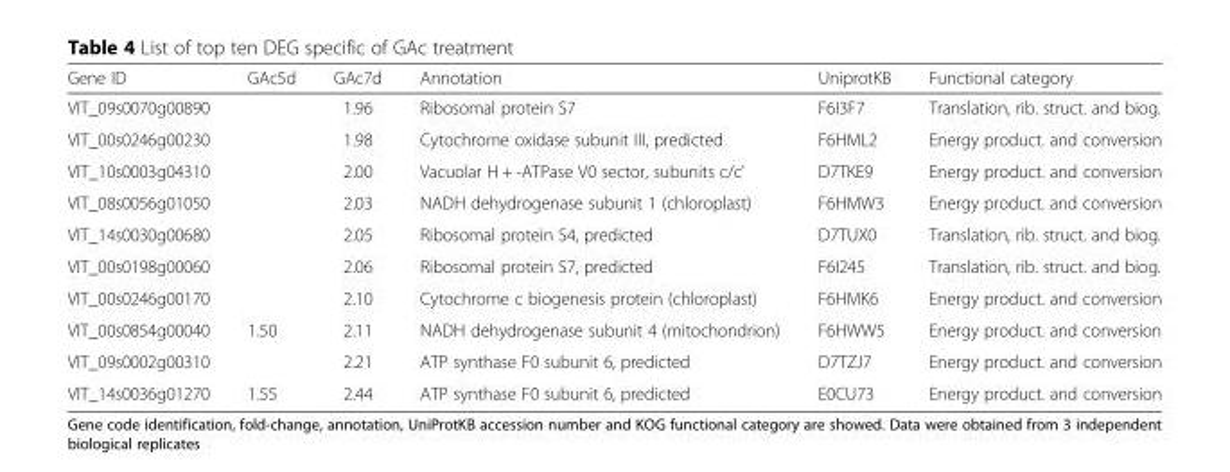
<table><thead><tr><td>Gene ID</td><td>GAc5d</td><td>GAc7d</td><td>Annotation</td><td>UniprotKB</td><td>Functional category</td></tr></thead><tbody><tr><td>VIT_09s0070g00890</td><td></td><td>1.96</td><td>Ribosomal protein S7</td><td>F6I3F7</td><td>Translation, rib. struct. and biog.</td></tr><tr><td>VIT_00s0246g00230</td><td></td><td>1.98</td><td>Cytochrome oxidase subunit III, predicted</td><td>F6HML2</td><td>Energy product. and conversion</td></tr><tr><td>VIT_10s0003g04310</td><td></td><td>2.00</td><td>Vacuolar H + -ATPase V0 sector, subunits c/c&#x27;</td><td>D7TKE9</td><td>Energy product. and conversion</td></tr><tr><td>VIT_08s0056g01050</td><td></td><td>2.03</td><td>NADH dehydrogenase subunit 1 (chloroplast)</td><td>F6HMW3</td><td>Energy product. and conversion</td></tr><tr><td>VIT_14s0030g00680</td><td></td><td>2.05</td><td>Ribosomal protein S4, predicted</td><td>D7TUX0</td><td>Translation, rib. struct. and biog.</td></tr><tr><td>VIT_00s0198g00060</td><td></td><td>2.06</td><td>Ribosomal protein S7, predicted</td><td>F6I245</td><td>Translation, rib. struct. and biog.</td></tr><tr><td>VIT_00s0246g00170</td><td></td><td>2.10</td><td>Cytochrome c biogenesis protein (chloroplast)</td><td>F6HMK6</td><td>Energy product. and conversion</td></tr><tr><td>VIT_00s0854g00040</td><td>1.50</td><td>2.11</td><td>NADH dehydrogenase subunit 4 (mitochondrion)</td><td>F6HWW5</td><td>Energy product. and conversion</td></tr><tr><td>VIT_09s0002g00310</td><td></td><td>2.21</td><td>ATP synthase F0 subunit 6, predicted</td><td>D7TZJ7</td><td>Energy product. and conversion</td></tr><tr><td>VIT_14s0036g01270</td><td>1.55</td><td>2.44</td><td>ATP synthase F0 subunit 6, predicted</td><td>E0CU73</td><td>Energy product. and conversion</td></tr></tbody></table>